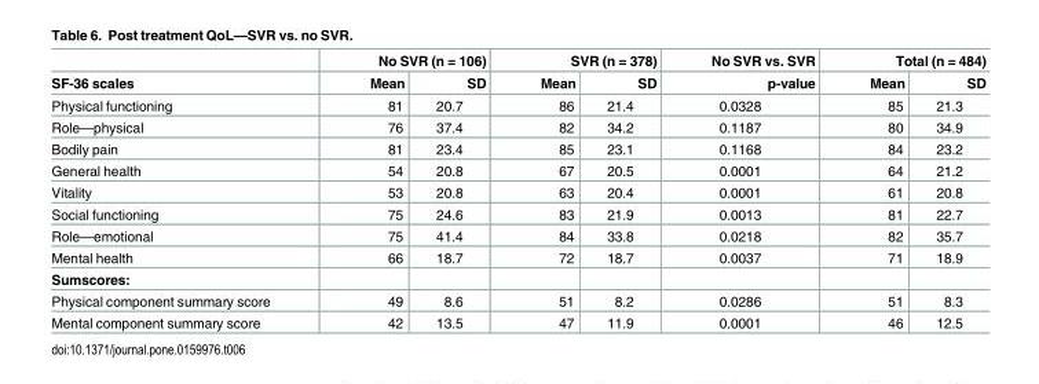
<table><thead><tr><td rowspan="2">SF-36 scales</td><td colspan="2">No SVR (n = 106)</td><td colspan="2">SVR (n = 378)</td><td rowspan="2">No SVR vs. SVR p-value</td><td colspan="2">Total (n = 484)</td></tr><tr><td>Mean</td><td>SD</td><td>Mean</td><td>SD</td><td>Mean</td><td>SD</td></tr></thead><tbody><tr><td>Physical functioning</td><td>81</td><td>20.7</td><td>86</td><td>21.4</td><td>0.0328</td><td>85</td><td>21.3</td></tr><tr><td>Role—physical</td><td>76</td><td>37.4</td><td>82</td><td>34.2</td><td>0.1187</td><td>80</td><td>34.9</td></tr><tr><td>Bodily pain</td><td>81</td><td>23.4</td><td>85</td><td>23.1</td><td>0.1168</td><td>84</td><td>23.2</td></tr><tr><td>General health</td><td>54</td><td>20.8</td><td>67</td><td>20.5</td><td>0.0001</td><td>64</td><td>21.2</td></tr><tr><td>Vitality</td><td>53</td><td>20.8</td><td>63</td><td>20.4</td><td>0.0001</td><td>61</td><td>20.8</td></tr><tr><td>Social functioning</td><td>75</td><td>24.6</td><td>83</td><td>21.9</td><td>0.0013</td><td>81</td><td>22.7</td></tr><tr><td>Role—emotional</td><td>75</td><td>41.4</td><td>84</td><td>33.8</td><td>0.0218</td><td>82</td><td>35.7</td></tr><tr><td>Mental health</td><td>66</td><td>18.7</td><td>72</td><td>18.7</td><td>0.0037</td><td>71</td><td>18.9</td></tr><tr><td colspan="8">Sumscores:</td></tr><tr><td>Physical component summary score</td><td>49</td><td>8.6</td><td>51</td><td>8.2</td><td>0.0286</td><td>51</td><td>8.3</td></tr><tr><td>Mental component summary score</td><td>42</td><td>13.5</td><td>47</td><td>11.9</td><td>0.0001</td><td>46</td><td>12.5</td></tr></tbody></table>